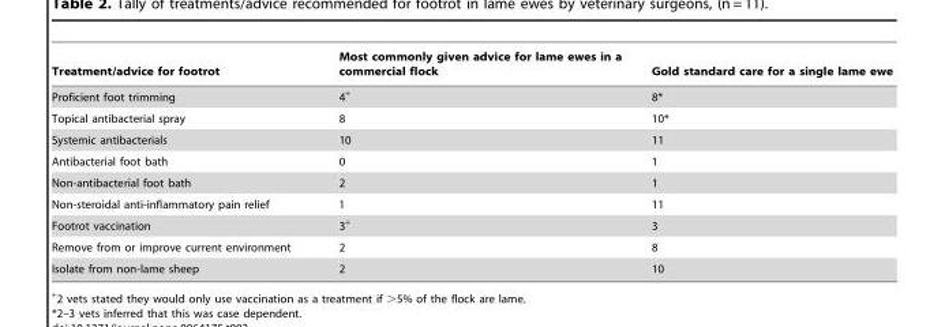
<table><thead><tr><td>Treatment/advice for footrot</td><td>Most commonly given advice for lame ewes in a commercial flock</td><td>Gold standard care for a single lame ewe</td></tr></thead><tbody><tr><td>Proficient foot trimming</td><td>4+</td><td>8*</td></tr><tr><td>Topical antibacterial spray</td><td>8</td><td>10*</td></tr><tr><td>Systemic antibacterials</td><td>10</td><td>11</td></tr><tr><td>Antibacterial foot bath</td><td>0</td><td>1</td></tr><tr><td>Non-antibacterial foot bath</td><td>2</td><td>1</td></tr><tr><td>Non-steroidal anti-inflammatory pain relief</td><td>1</td><td>11</td></tr><tr><td>Footrot vaccination</td><td>3+</td><td>3</td></tr><tr><td>Remove from or improve current environment</td><td>2</td><td>8</td></tr><tr><td>Isolate from non-lame sheep</td><td>2</td><td>10</td></tr></tbody></table>